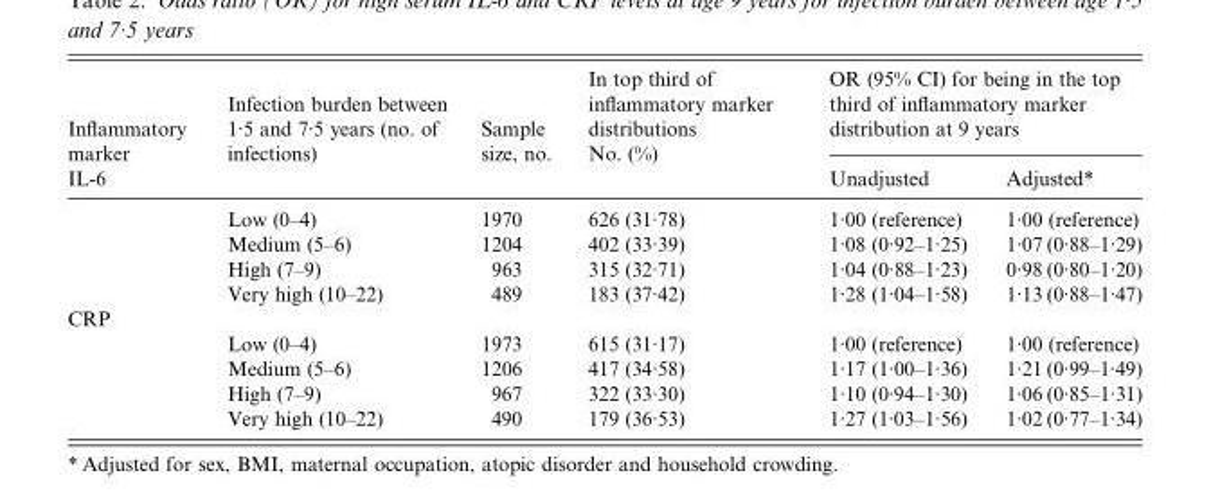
<table><thead><tr><td rowspan="2">Inflammatory marker IL-6</td><td rowspan="2">Infection burden between 1·5 and 7·5 years (no. of infections)</td><td rowspan="2">Sample size, no.</td><td rowspan="2">In top third of inflammatory marker distributions No. (%)</td><td colspan="2">OR (95% CI) for being in the top third of inflammatory marker distribution at 9 years</td></tr><tr><td>Unadjusted</td><td>Adjusted*</td></tr></thead><tbody><tr><td></td><td>Low (0–4)</td><td>1970</td><td>626 (31·78)</td><td>1·00 (reference)</td><td>1·00 (reference)</td></tr><tr><td></td><td>Medium (5–6)</td><td>1204</td><td>402 (33·39)</td><td>1·08 (0·92–1·25)</td><td>1·07 (0·88–1·29)</td></tr><tr><td></td><td>High (7–9)</td><td>963</td><td>315 (32·71)</td><td>1·04 (0·88–1·23)</td><td>0·98 (0·80–1·20)</td></tr><tr><td></td><td>Very high (10–22)</td><td>489</td><td>183 (37·42)</td><td>1·28 (1·04–1·58)</td><td>1·13 (0·88–1·47)</td></tr><tr><td colspan="6">CRP</td></tr><tr><td></td><td>Low (0–4)</td><td>1973</td><td>615 (31·17)</td><td>1·00 (reference)</td><td>1·00 (reference)</td></tr><tr><td></td><td>Medium (5–6)</td><td>1206</td><td>417 (34·58)</td><td>1·17 (1·00–1·36)</td><td>1·21 (0·99–1·49)</td></tr><tr><td></td><td>High (7–9)</td><td>967</td><td>322 (33·30)</td><td>1·10 (0·94–1·30)</td><td>1·06 (0·85–1·31)</td></tr><tr><td></td><td>Very high (10–22)</td><td>490</td><td>179 (36·53)</td><td>1·27 (1·03–1·56)</td><td>1·02 (0·77–1·34)</td></tr></tbody></table>